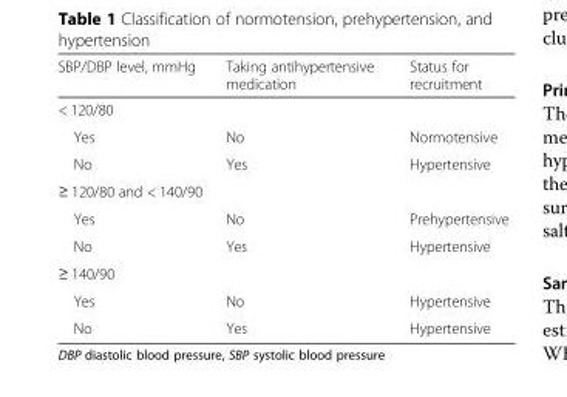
<table><thead><tr><td>SBP/DBP level, mmHg</td><td>Taking antihypertensive medication</td><td>Status for recruitment</td></tr></thead><tbody><tr><td colspan="3">&lt; 120/80</td></tr><tr><td>Yes</td><td>No</td><td>Normotensive</td></tr><tr><td>No</td><td>Yes</td><td>Hypertensive</td></tr><tr><td colspan="3">≥ 120/80 and &lt; 140/90</td></tr><tr><td>Yes</td><td>No</td><td>Prehypertensive</td></tr><tr><td>No</td><td>Yes</td><td>Hypertensive</td></tr><tr><td colspan="3">≥ 140/90</td></tr><tr><td>Yes</td><td>No</td><td>Hypertensive</td></tr><tr><td>No</td><td>Yes</td><td>Hypertensive</td></tr></tbody></table>